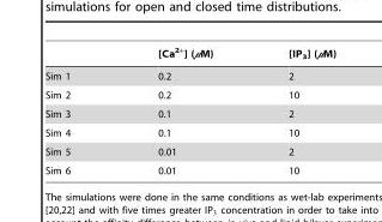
<table><thead><tr><td></td><td>[Ca<sup>2+</sup>] (μM)</td><td>[IP<sub>3</sub>] (μM)</td></tr></thead><tbody><tr><td>Sim 1</td><td>0.2</td><td>2</td></tr><tr><td>Sim 2</td><td>0.2</td><td>10</td></tr><tr><td>Sim 3</td><td>0.1</td><td>2</td></tr><tr><td>Sim 4</td><td>0.1</td><td>10</td></tr><tr><td>Sim 5</td><td>0.01</td><td>2</td></tr><tr><td>Sim 6</td><td>0.01</td><td>10</td></tr></tbody></table>